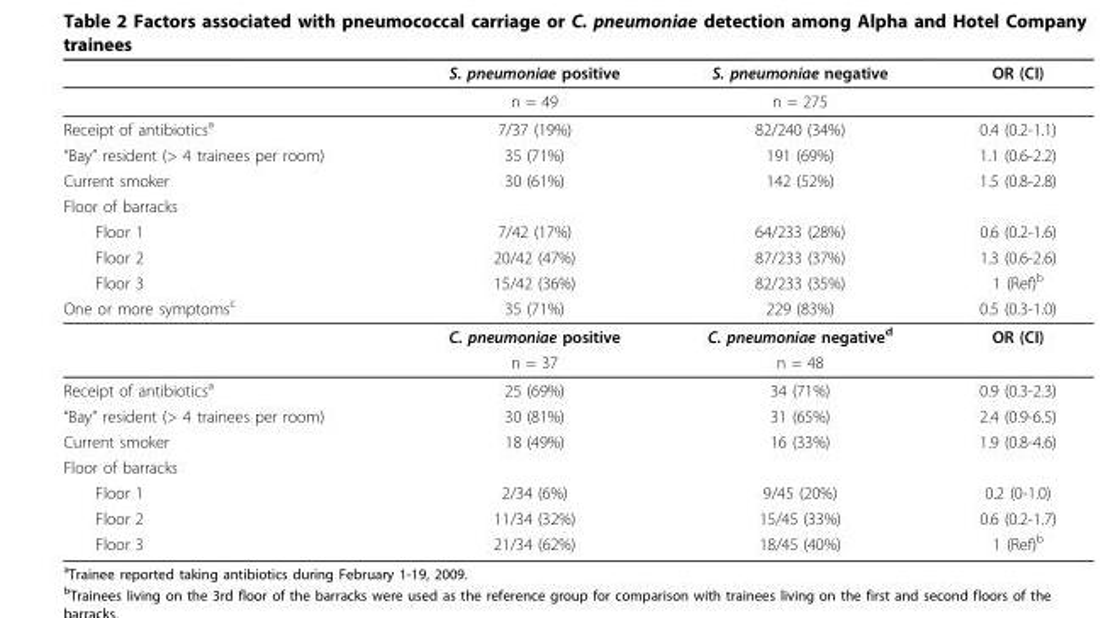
<table><thead><tr><td></td><td>S. pneumoniae positive</td><td>S. pneumoniae negative</td><td>OR (CI)</td></tr></thead><tbody><tr><td></td><td>n = 49</td><td>n = 275</td><td></td></tr><tr><td>Receipt of antibiotics<sup>a</sup></td><td>7/37 (19%)</td><td>82/240 (34%)</td><td>0.4 (0.2-1.1)</td></tr><tr><td>“Bay” resident (&gt; 4 trainees per room)</td><td>35 (71%)</td><td>191 (69%)</td><td>1.1 (0.6-2.2)</td></tr><tr><td>Current smoker</td><td>30 (61%)</td><td>142 (52%)</td><td>1.5 (0.8-2.8)</td></tr><tr><td colspan="4">Floor of barracks</td></tr><tr><td>Floor 1</td><td>7/42 (17%)</td><td>64/233 (28%)</td><td>0.6 (0.2-1.6)</td></tr><tr><td>Floor 2</td><td>20/42 (47%)</td><td>87/233 (37%)</td><td>1.3 (0.6-2.6)</td></tr><tr><td>Floor 3</td><td>15/42 (36%)</td><td>82/233 (35%)</td><td>1 (Ref)<sup>b</sup></td></tr><tr><td rowspan="3">One or more symptoms<sup>c</sup></td><td>35 (71%)</td><td>229 (83%)</td><td>0.5 (0.3-1.0)</td></tr><tr><td>C. pneumoniae positive</td><td>C. pneumoniae negative<sup>d</sup></td><td>OR (CI)</td></tr><tr><td>n = 37</td><td>n = 48</td><td></td></tr><tr><td>Receipt of antibiotics<sup>a</sup></td><td>25 (69%)</td><td>34 (71%)</td><td>0.9 (0.3-2.3)</td></tr><tr><td>“Bay” resident (&gt; 4 trainees per room)</td><td>30 (81%)</td><td>31 (65%)</td><td>2.4 (0.9-6.5)</td></tr><tr><td>Current smoker</td><td>18 (49%)</td><td>16 (33%)</td><td>1.9 (0.8-4.6)</td></tr><tr><td colspan="4">Floor of barracks</td></tr><tr><td>Floor 1</td><td>2/34 (6%)</td><td>9/45 (20%)</td><td>0.2 (0-1.0)</td></tr><tr><td>Floor 2</td><td>11/34 (32%)</td><td>15/45 (33%)</td><td>0.6 (0.2-1.7)</td></tr><tr><td>Floor 3</td><td>21/34 (62%)</td><td>18/45 (40%)</td><td>1 (Ref)<sup>b</sup></td></tr></tbody></table>